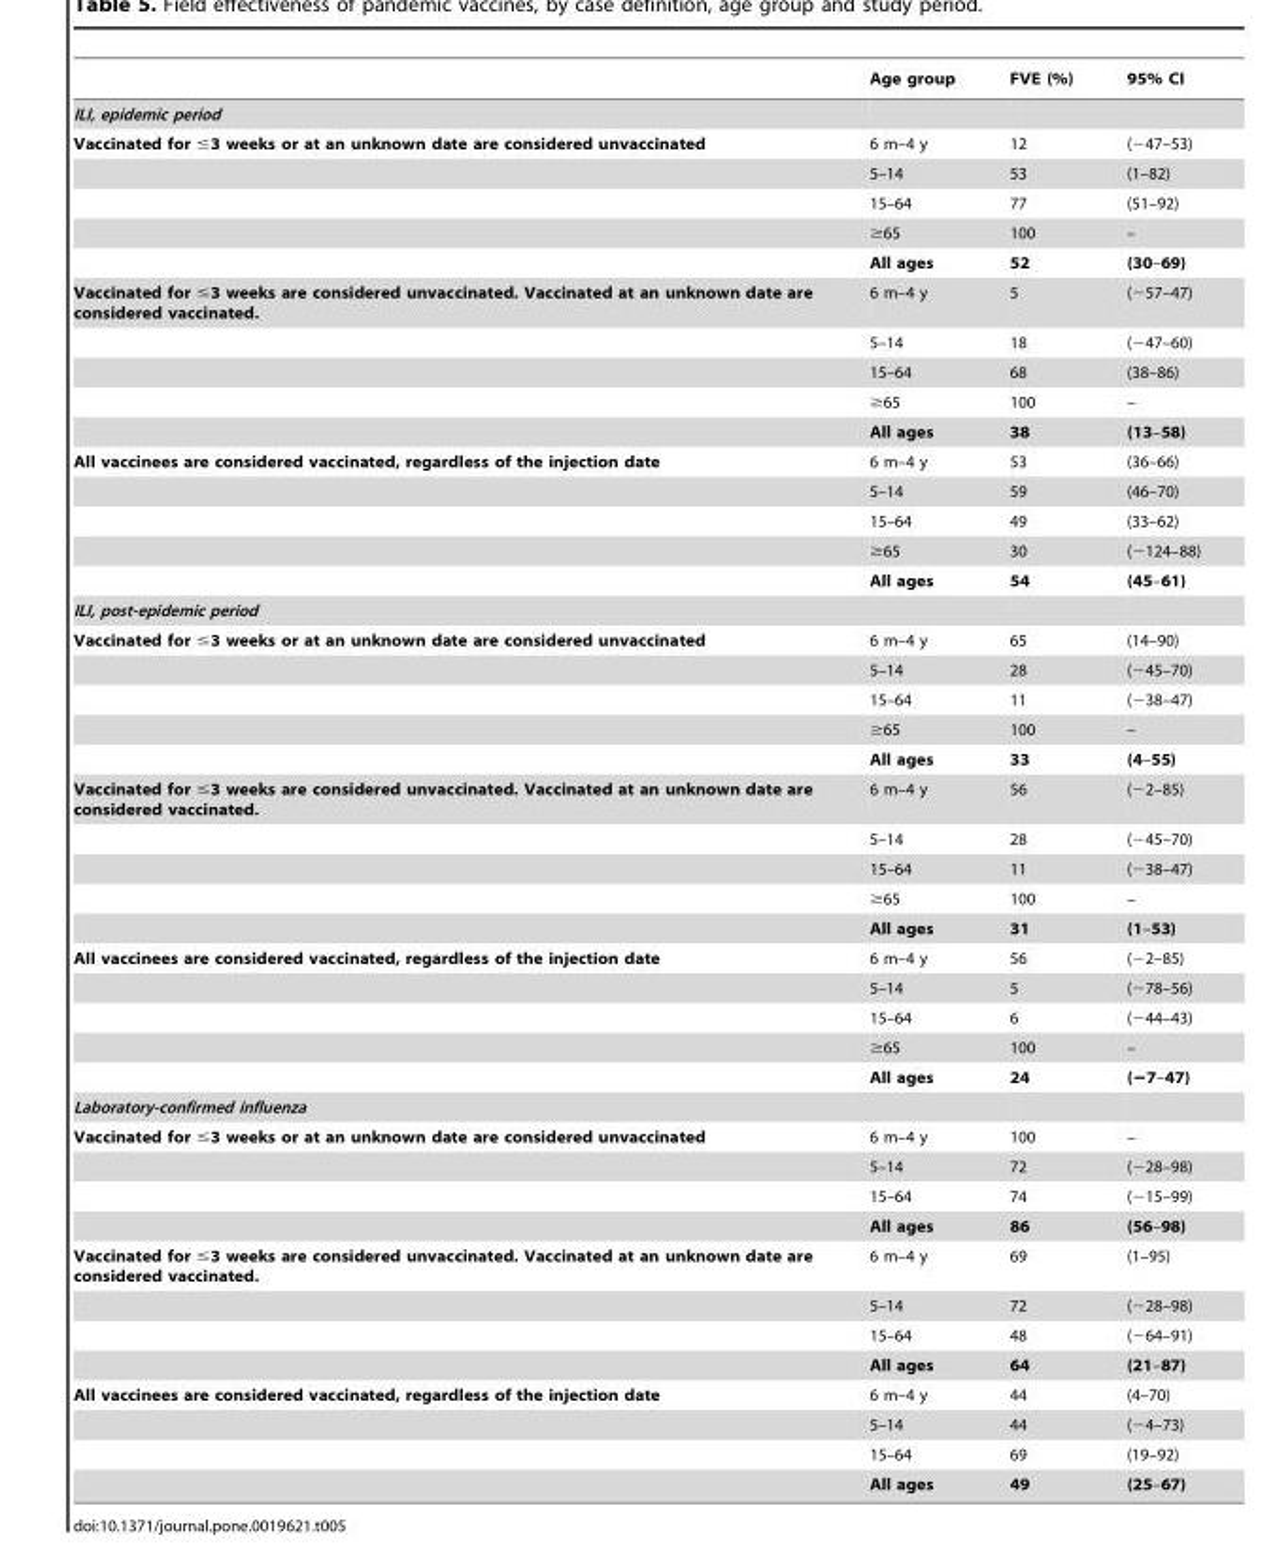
<table><thead><tr><td></td><td>Age group</td><td>FVE (%)</td><td>95% CI</td></tr></thead><tbody><tr><td colspan="4">ILI, epidemic period</td></tr><tr><td rowspan="5">Vaccinated for ≤3 weeks or at an unknown date are considered unvaccinated</td><td>6 m–4 y</td><td>12</td><td>(−47–53)</td></tr><tr><td>5–14</td><td>53</td><td>(1–82)</td></tr><tr><td>15–64</td><td>77</td><td>(51–92)</td></tr><tr><td>≥65</td><td>100</td><td>–</td></tr><tr><td>All ages</td><td>52</td><td>(30–69)</td></tr><tr><td rowspan="5">Vaccinated for ≤3 weeks are considered unvaccinated. Vaccinated at an unknown date are considered vaccinated.</td><td>6 m–4 y</td><td>5</td><td>(−57–47)</td></tr><tr><td>5–14</td><td>18</td><td>(−47–60)</td></tr><tr><td>15–64</td><td>68</td><td>(38–86)</td></tr><tr><td>≥65</td><td>100</td><td>–</td></tr><tr><td>All ages</td><td>38</td><td>(13–58)</td></tr><tr><td rowspan="5">All vaccinees are considered vaccinated, regardless of the injection date</td><td>6 m–4 y</td><td>53</td><td>(36–66)</td></tr><tr><td>5–14</td><td>59</td><td>(46–70)</td></tr><tr><td>15–64</td><td>49</td><td>(33–62)</td></tr><tr><td>≥65</td><td>30</td><td>(−124–88)</td></tr><tr><td>All ages</td><td>54</td><td>(45–61)</td></tr><tr><td colspan="4">ILI, post-epidemic period</td></tr><tr><td rowspan="5">Vaccinated for ≤3 weeks or at an unknown date are considered unvaccinated</td><td>6 m–4 y</td><td>65</td><td>(14–90)</td></tr><tr><td>5–14</td><td>28</td><td>(−45–70)</td></tr><tr><td>15–64</td><td>11</td><td>(−38–47)</td></tr><tr><td>≥65</td><td>100</td><td>–</td></tr><tr><td>All ages</td><td>33</td><td>(4–55)</td></tr><tr><td rowspan="5">Vaccinated for ≤3 weeks are considered unvaccinated. Vaccinated at an unknown date are considered vaccinated.</td><td>6 m–4 y</td><td>56</td><td>(−2–85)</td></tr><tr><td>5–14</td><td>28</td><td>(−45–70)</td></tr><tr><td>15–64</td><td>11</td><td>(−38–47)</td></tr><tr><td>≥65</td><td>100</td><td>–</td></tr><tr><td>All ages</td><td>31</td><td>(1–53)</td></tr><tr><td rowspan="5">All vaccinees are considered vaccinated, regardless of the injection date</td><td>6 m–4 y</td><td>56</td><td>(−2–85)</td></tr><tr><td>5–14</td><td>5</td><td>(−78–56)</td></tr><tr><td>15–64</td><td>6</td><td>(−44–43)</td></tr><tr><td>≥65</td><td>100</td><td>–</td></tr><tr><td>All ages</td><td>24</td><td>(−7–47)</td></tr><tr><td colspan="4">Laboratory-confirmed influenza</td></tr><tr><td rowspan="4">Vaccinated for ≤3 weeks or at an unknown date are considered unvaccinated</td><td>6 m–4 y</td><td>100</td><td>–</td></tr><tr><td>5–14</td><td>72</td><td>(−28–98)</td></tr><tr><td>15–64</td><td>74</td><td>(−15–99)</td></tr><tr><td>All ages</td><td>86</td><td>(56–98)</td></tr><tr><td rowspan="4">Vaccinated for ≤3 weeks are considered unvaccinated. Vaccinated at an unknown date are considered vaccinated.</td><td>6 m–4 y</td><td>69</td><td>(1–95)</td></tr><tr><td>5–14</td><td>72</td><td>(−28–98)</td></tr><tr><td>15–64</td><td>48</td><td>(−64–91)</td></tr><tr><td>All ages</td><td>64</td><td>(21–87)</td></tr><tr><td rowspan="4">All vaccinees are considered vaccinated, regardless of the injection date</td><td>6 m–4 y</td><td>44</td><td>(4–70)</td></tr><tr><td>5–14</td><td>44</td><td>(−4–73)</td></tr><tr><td>15–64</td><td>69</td><td>(19–92)</td></tr><tr><td>All ages</td><td>49</td><td>(25–67)</td></tr></tbody></table>